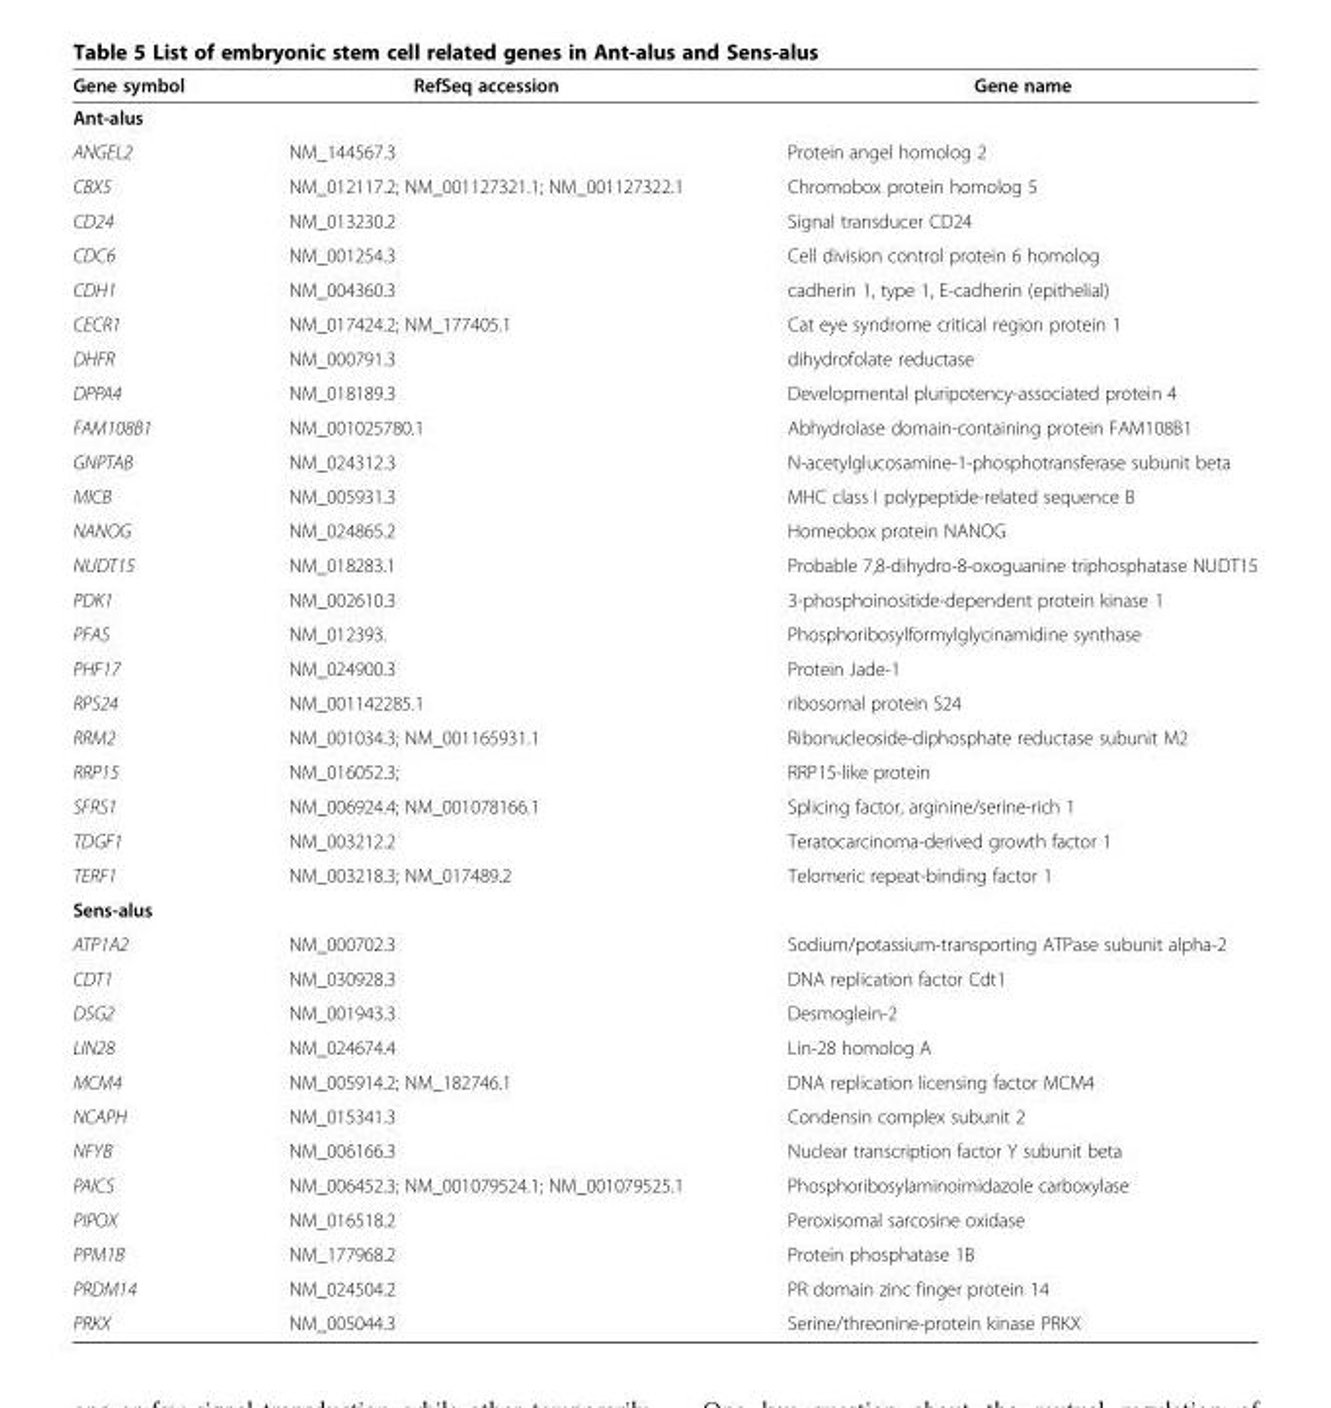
<table><thead><tr><td>Gene symbol</td><td>RefSeq accession</td><td>Gene name</td></tr></thead><tbody><tr><td colspan="3">Ant-alus</td></tr><tr><td>ANGEL2</td><td>NM_144567.3</td><td>Protein angel homolog 2</td></tr><tr><td>CBX5</td><td>NM_012117.2; NM_001127321.1; NM_001127322.1</td><td>Chromobox protein homolog 5</td></tr><tr><td>CD24</td><td>NM_013230.2</td><td>Signal transducer CD24</td></tr><tr><td>CDC6</td><td>NM_001254.3</td><td>Cell division control protein 6 homolog</td></tr><tr><td>CDH1</td><td>NM_004360.3</td><td>cadherin 1, type 1, E-cadherin (epithelial)</td></tr><tr><td>CECR1</td><td>NM_017424.2; NM_177405.1</td><td>Cat eye syndrome critical region protein 1</td></tr><tr><td>DHFR</td><td>NM_000791.3</td><td>dihydrofolate reductase</td></tr><tr><td>DPPA4</td><td>NM_018189.3</td><td>Developmental pluripotency-associated protein 4</td></tr><tr><td>FAM108B1</td><td>NM_001025780.1</td><td>Abhydrolase domain-containing protein FAM108B1</td></tr><tr><td>GNPTAB</td><td>NM_024312.3</td><td>N-acetylglucosamine-1-phosphotransferase subunit beta</td></tr><tr><td>MICB</td><td>NM_005931.3</td><td>MHC class I polypeptide-related sequence B</td></tr><tr><td>NANOG</td><td>NM_024865.2</td><td>Homeobox protein NANOG</td></tr><tr><td>NUDT15</td><td>NM_018283.1</td><td>Probable 7,8-dihydro-8-oxoguanine triphosphatase NUDT15</td></tr><tr><td>PDK1</td><td>NM_002610.3</td><td>3-phosphoinositide-dependent protein kinase 1</td></tr><tr><td>PFAS</td><td>NM_012393.</td><td>Phosphoribosylformylglycinamidine synthase</td></tr><tr><td>PHF17</td><td>NM_024900.3</td><td>Protein Jade-1</td></tr><tr><td>RPS24</td><td>NM_001142285.1</td><td>ribosomal protein S24</td></tr><tr><td>RRM2</td><td>NM_001034.3; NM_001165931.1</td><td>Ribonucleoside-diphosphate reductase subunit M2</td></tr><tr><td>RRP15</td><td>NM_016052.3;</td><td>RRP15-like protein</td></tr><tr><td>SFRS1</td><td>NM_006924.4; NM_001078166.1</td><td>Splicing factor, arginine/serine-rich 1</td></tr><tr><td>TDGF1</td><td>NM_003212.2</td><td>Teratocarcinoma-derived growth factor 1</td></tr><tr><td>TERF1</td><td>NM_003218.3; NM_017489.2</td><td>Telomeric repeat-binding factor 1</td></tr><tr><td colspan="3">Sens-alus</td></tr><tr><td>ATP1A2</td><td>NM_000702.3</td><td>Sodium/potassium-transporting ATPase subunit alpha-2</td></tr><tr><td>CDT1</td><td>NM_030928.3</td><td>DNA replication factor Cdt1</td></tr><tr><td>DSG2</td><td>NM_001943.3</td><td>Desmoglein-2</td></tr><tr><td>LIN28</td><td>NM_024674.4</td><td>Lin-28 homolog A</td></tr><tr><td>MCM4</td><td>NM_005914.2; NM_182746.1</td><td>DNA replication licensing factor MCM4</td></tr><tr><td>NCAPH</td><td>NM_015341.3</td><td>Condensin complex subunit 2</td></tr><tr><td>NFYB</td><td>NM_006166.3</td><td>Nuclear transcription factor Y subunit beta</td></tr><tr><td>PAICS</td><td>NM_006452.3; NM_001079524.1; NM_001079525.1</td><td>Phosphoribosylaminoimidazole carboxylase</td></tr><tr><td>PIPOX</td><td>NM_016518.2</td><td>Peroxisomal sarcosine oxidase</td></tr><tr><td>PPM1B</td><td>NM_177968.2</td><td>Protein phosphatase 1B</td></tr><tr><td>PRDM14</td><td>NM_024504.2</td><td>PR domain zinc finger protein 14</td></tr><tr><td>PRKX</td><td>NM_005044.3</td><td>Serine/threonine-protein kinase PRKX</td></tr></tbody></table>